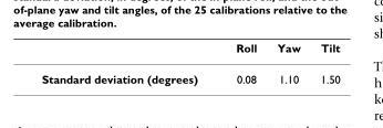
<table><thead><tr><td></td><td>Roll</td><td>Yaw</td><td>Tilt</td></tr></thead><tbody><tr><td>Standard deviation (degrees)</td><td>0.08</td><td>1.10</td><td>1.50</td></tr></tbody></table>